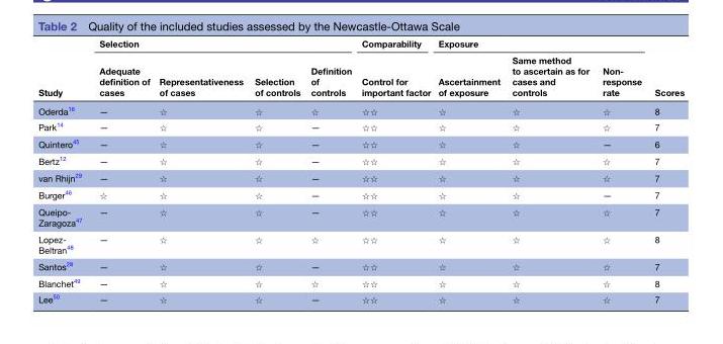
<table><thead><tr><td rowspan="2">Study</td><td colspan="4">Selection</td><td rowspan="2">Comparability Control for important factor</td><td colspan="3">Exposure</td><td rowspan="2">Scores</td></tr><tr><td>Adequate definition of cases</td><td>Representativeness of cases</td><td>Selection of controls</td><td>Definition of controls</td><td>Ascertainment of exposure</td><td>Same method to ascertain as for cases and controls</td><td>Non- response rate</td></tr></thead><tbody><tr><td>Oderda<sup>16</sup></td><td>—</td><td>☆</td><td>☆</td><td>☆</td><td>☆☆</td><td>☆</td><td>☆</td><td>☆</td><td>8</td></tr><tr><td>Park<sup>14</sup></td><td>—</td><td>☆</td><td>☆</td><td>—</td><td>☆☆</td><td>☆</td><td>☆</td><td>☆</td><td>7</td></tr><tr><td>Quintero<sup>45</sup></td><td>—</td><td>☆</td><td>☆</td><td>—</td><td>☆☆</td><td>☆</td><td>☆</td><td>—</td><td>6</td></tr><tr><td>Bertz<sup>12</sup></td><td>—</td><td>☆</td><td>☆</td><td>—</td><td>☆☆</td><td>☆</td><td>☆</td><td>☆</td><td>7</td></tr><tr><td>van Rhijn<sup>29</sup></td><td>—</td><td>☆</td><td>☆</td><td>—</td><td>☆☆</td><td>☆</td><td>☆</td><td>☆</td><td>7</td></tr><tr><td>Burger<sup>46</sup></td><td>☆</td><td>☆</td><td>☆</td><td>—</td><td>☆☆</td><td>☆</td><td>☆</td><td>—</td><td>7</td></tr><tr><td>Queipo- Zaragoza<sup>47</sup></td><td>—</td><td>☆</td><td>☆</td><td>—</td><td>☆☆</td><td>☆</td><td>☆</td><td>☆</td><td>7</td></tr><tr><td>Lopez- Beltran<sup>48</sup></td><td>—</td><td>☆</td><td>☆</td><td>☆</td><td>☆☆</td><td>☆</td><td>☆</td><td>☆</td><td>8</td></tr><tr><td>Santos<sup>28</sup></td><td>—</td><td>☆</td><td>☆</td><td>—</td><td>☆☆</td><td>☆</td><td>☆</td><td>☆</td><td>7</td></tr><tr><td>Blanchet<sup>49</sup></td><td>—</td><td>☆</td><td>☆</td><td>☆</td><td>☆☆</td><td>☆</td><td>☆</td><td>☆</td><td>8</td></tr><tr><td>Lee<sup>50</sup></td><td>—</td><td>☆</td><td>☆</td><td>—</td><td>☆☆</td><td>☆</td><td>☆</td><td>☆</td><td>7</td></tr></tbody></table>